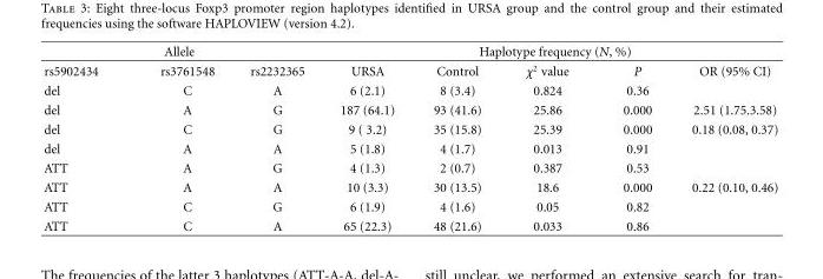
<table><thead><tr><td colspan="3">Allele</td><td colspan="5">Haplotype frequency (N, %)</td></tr><tr><td>rs5902434</td><td>rs3761548</td><td>rs2232365</td><td>URSA</td><td>Control</td><td>χ<sup>2</sup> value</td><td>P</td><td>OR (95% CI)</td></tr></thead><tbody><tr><td>del</td><td>C</td><td>A</td><td>6 (2.1)</td><td>8 (3.4)</td><td>0.824</td><td>0.36</td><td></td></tr><tr><td>del</td><td>A</td><td>G</td><td>187 (64.1)</td><td>93 (41.6)</td><td>25.86</td><td>0.000</td><td>2.51 (1.75.3.58)</td></tr><tr><td>del</td><td>C</td><td>G</td><td>9 ( 3.2)</td><td>35 (15.8)</td><td>25.39</td><td>0.000</td><td>0.18 (0.08, 0.37)</td></tr><tr><td>del</td><td>A</td><td>A</td><td>5 (1.8)</td><td>4 (1.7)</td><td>0.013</td><td>0.91</td><td></td></tr><tr><td>ATT</td><td>A</td><td>G</td><td>4 (1.3)</td><td>2 (0.7)</td><td>0.387</td><td>0.53</td><td></td></tr><tr><td>ATT</td><td>A</td><td>A</td><td>10 (3.3)</td><td>30 (13.5)</td><td>18.6</td><td>0.000</td><td>0.22 (0.10, 0.46)</td></tr><tr><td>ATT</td><td>C</td><td>G</td><td>6 (1.9)</td><td>4 (1.6)</td><td>0.05</td><td>0.82</td><td></td></tr><tr><td>ATT</td><td>C</td><td>A</td><td>65 (22.3)</td><td>48 (21.6)</td><td>0.033</td><td>0.86</td><td></td></tr></tbody></table>